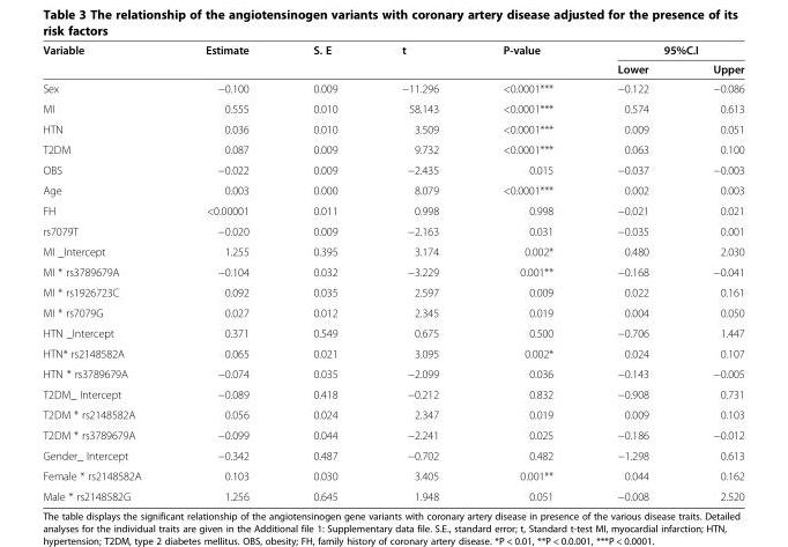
<table><thead><tr><td rowspan="2">Variable</td><td rowspan="2">Estimate</td><td rowspan="2">S. E</td><td rowspan="2">t</td><td rowspan="2">P-value</td><td colspan="2">95%C.I</td></tr><tr><td>Lower</td><td>Upper</td></tr></thead><tbody><tr><td>Sex</td><td>−0.100</td><td>0.009</td><td>−11.296</td><td>&lt;0.0001***</td><td>−0.122</td><td>−0.086</td></tr><tr><td>MI</td><td>0.555</td><td>0.010</td><td>58.143</td><td>&lt;0.0001***</td><td>0.574</td><td>0.613</td></tr><tr><td>HTN</td><td>0.036</td><td>0.010</td><td>3.509</td><td>&lt;0.0001***</td><td>0.009</td><td>0.051</td></tr><tr><td>T2DM</td><td>0.087</td><td>0.009</td><td>9.732</td><td>&lt;0.0001***</td><td>0.063</td><td>0.100</td></tr><tr><td>OBS</td><td>−0.022</td><td>0.009</td><td>−2.435</td><td>0.015</td><td>−0.037</td><td>−0.003</td></tr><tr><td>Age</td><td>0.003</td><td>0.000</td><td>8.079</td><td>&lt;0.0001***</td><td>0.002</td><td>0.003</td></tr><tr><td>FH</td><td>&lt;0.00001</td><td>0.011</td><td>0.998</td><td>0.998</td><td>−0.021</td><td>0.021</td></tr><tr><td>rs7079T</td><td>−0.020</td><td>0.009</td><td>−2.163</td><td>0.031</td><td>−0.035</td><td>0.001</td></tr><tr><td>MI _Intercept</td><td>1.255</td><td>0.395</td><td>3.174</td><td>0.002*</td><td>0.480</td><td>2.030</td></tr><tr><td>MI * rs3789679A</td><td>−0.104</td><td>0.032</td><td>−3.229</td><td>0.001**</td><td>−0.168</td><td>−0.041</td></tr><tr><td>MI * rs1926723C</td><td>0.092</td><td>0.035</td><td>2.597</td><td>0.009</td><td>0.022</td><td>0.161</td></tr><tr><td>MI * rs7079G</td><td>0.027</td><td>0.012</td><td>2.345</td><td>0.019</td><td>0.004</td><td>0.050</td></tr><tr><td>HTN _Intercept</td><td>0.371</td><td>0.549</td><td>0.675</td><td>0.500</td><td>−0.706</td><td>1.447</td></tr><tr><td>HTN* rs2148582A</td><td>0.065</td><td>0.021</td><td>3.095</td><td>0.002*</td><td>0.024</td><td>0.107</td></tr><tr><td>HTN * rs3789679A</td><td>−0.074</td><td>0.035</td><td>−2.099</td><td>0.036</td><td>−0.143</td><td>−0.005</td></tr><tr><td>T2DM_ Intercept</td><td>−0.089</td><td>0.418</td><td>−0.212</td><td>0.832</td><td>−0.908</td><td>0.731</td></tr><tr><td>T2DM * rs2148582A</td><td>0.056</td><td>0.024</td><td>2.347</td><td>0.019</td><td>0.009</td><td>0.103</td></tr><tr><td>T2DM * rs3789679A</td><td>−0.099</td><td>0.044</td><td>−2.241</td><td>0.025</td><td>−0.186</td><td>−0.012</td></tr><tr><td>Gender_ Intercept</td><td>−0.342</td><td>0.487</td><td>−0.702</td><td>0.482</td><td>−1.298</td><td>0.613</td></tr><tr><td>Female * rs2148582A</td><td>0.103</td><td>0.030</td><td>3.405</td><td>0.001**</td><td>0.044</td><td>0.162</td></tr><tr><td>Male * rs2148582G</td><td>1.256</td><td>0.645</td><td>1.948</td><td>0.051</td><td>−0.008</td><td>2.520</td></tr></tbody></table>